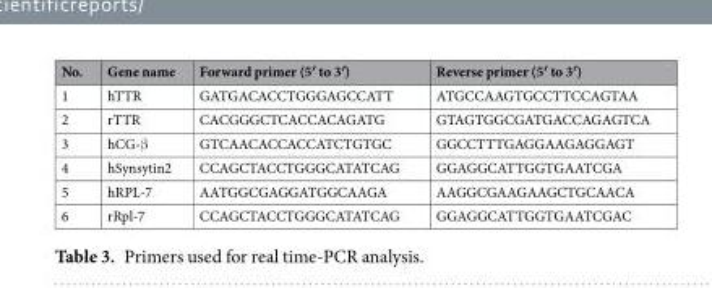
<table><thead><tr><td>No.</td><td>Gene name</td><td>Forward primer (5′ to 3′)</td><td>Reverse primer (5′ to 3′)</td></tr></thead><tbody><tr><td>1</td><td>hTTR</td><td>GATGACACCTGGGAGCCATT</td><td>ATGCCAAGTGCCTTCCAGTAA</td></tr><tr><td>2</td><td>rTTR</td><td>CACGGGCTCACCACAGATG</td><td>GTAGTGGCGATGACCAGAGTCA</td></tr><tr><td>3</td><td>hCG-β</td><td>GTCAACACCACCATCTGTGC</td><td>GGCCTTTGAGGAAGAGGAGT</td></tr><tr><td>4</td><td>hSynsytin2</td><td>CCAGCTACCTGGGCATATCAG</td><td>GGAGGCATTGGTGAATCGA</td></tr><tr><td>5</td><td>hRPL-7</td><td>AATGGCGAGGATGGCAAGA</td><td>AAGGCGAAGAAGCTGCAACA</td></tr><tr><td>6</td><td>rRpl-7</td><td>CCAGCTACCTGGGCATATCAG</td><td>GGAGGCATTGGTGAATCGAC</td></tr></tbody></table>